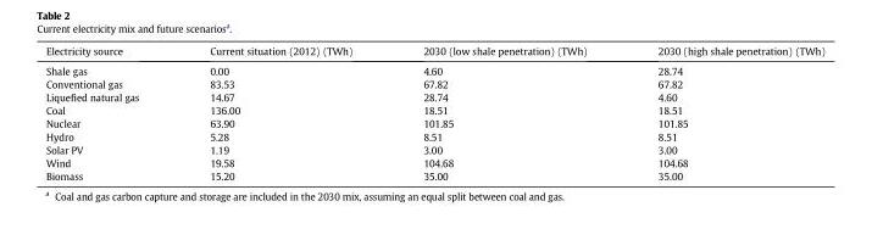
<table><thead><tr><td>Electricity source</td><td>Current situation (2012) (TWh)</td><td>2030 (low shale penetration) (TWh)</td><td>2030 (high shale penetration) (TWh)</td></tr></thead><tbody><tr><td>Shale gas</td><td>0.00</td><td>4.60</td><td>28.74</td></tr><tr><td>Conventional gas</td><td>83.53</td><td>67.82</td><td>67.82</td></tr><tr><td>Liquefied natural gas</td><td>14.67</td><td>28.74</td><td>4.60</td></tr><tr><td>Coal</td><td>136.00</td><td>18.51</td><td>18.51</td></tr><tr><td>Nuclear</td><td>63.90</td><td>101.85</td><td>101.85</td></tr><tr><td>Hydro</td><td>5.28</td><td>8.51</td><td>8.51</td></tr><tr><td>Solar PV</td><td>1.19</td><td>3.00</td><td>3.00</td></tr><tr><td>Wind</td><td>19.58</td><td>104.68</td><td>104.68</td></tr><tr><td>Biomass</td><td>15.20</td><td>35.00</td><td>35.00</td></tr></tbody></table>